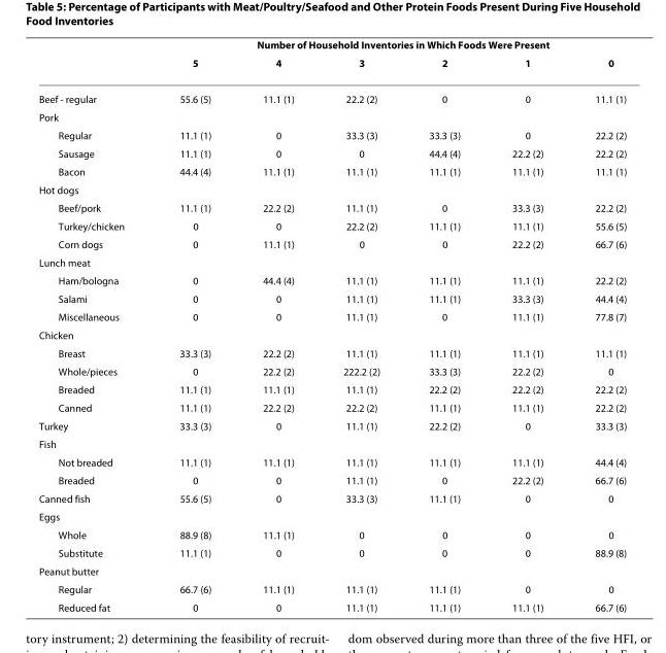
<table><thead><tr><td rowspan="2"></td><td colspan="6">Number of Household Inventories in Which Foods Were Present</td></tr><tr><td>5</td><td>4</td><td>3</td><td>2</td><td>1</td><td>0</td></tr></thead><tbody><tr><td>Beef - regular</td><td>55.6 (5)</td><td>11.1 (1)</td><td>22.2 (2)</td><td>0</td><td>0</td><td>11.1 (1)</td></tr><tr><td colspan="7">Pork</td></tr><tr><td>Regular</td><td>11.1 (1)</td><td>0</td><td>33.3 (3)</td><td>33.3 (3)</td><td>0</td><td>22.2 (2)</td></tr><tr><td>Sausage</td><td>11.1 (1)</td><td>0</td><td>0</td><td>44.4 (4)</td><td>22.2 (2)</td><td>22.2 (2)</td></tr><tr><td>Bacon</td><td>44.4 (4)</td><td>11.1 (1)</td><td>11.1 (1)</td><td>11.1 (1)</td><td>11.1 (1)</td><td>11.1 (1)</td></tr><tr><td colspan="7">Hot dogs</td></tr><tr><td>Beef/pork</td><td>11.1 (1)</td><td>22.2 (2)</td><td>11.1 (1)</td><td>0</td><td>33.3 (3)</td><td>22.2 (2)</td></tr><tr><td>Turkey/chicken</td><td>0</td><td>0</td><td>22.2 (2)</td><td>11.1 (1)</td><td>11.1 (1)</td><td>55.6 (5)</td></tr><tr><td>Corn dogs</td><td>0</td><td>11.1 (1)</td><td>0</td><td>0</td><td>22.2 (2)</td><td>66.7 (6)</td></tr><tr><td colspan="7">Lunch meat</td></tr><tr><td>Ham/bologna</td><td>0</td><td>44.4 (4)</td><td>11.1 (1)</td><td>11.1 (1)</td><td>11.1 (1)</td><td>22.2 (2)</td></tr><tr><td>Salami</td><td>0</td><td>0</td><td>11.1 (1)</td><td>11.1 (1)</td><td>33.3 (3)</td><td>44.4 (4)</td></tr><tr><td>Miscellaneous</td><td>0</td><td>0</td><td>11.1 (1)</td><td>0</td><td>11.1 (1)</td><td>77.8 (7)</td></tr><tr><td colspan="7">Chicken</td></tr><tr><td>Breast</td><td>33.3 (3)</td><td>22.2 (2)</td><td>11.1 (1)</td><td>11.1 (1)</td><td>11.1 (1)</td><td>11.1 (1)</td></tr><tr><td>Whole/pieces</td><td>0</td><td>22.2 (2)</td><td>222.2 (2)</td><td>33.3 (3)</td><td>22.2 (2)</td><td>0</td></tr><tr><td>Breaded</td><td>11.1 (1)</td><td>11.1 (1)</td><td>11.1 (1)</td><td>22.2 (2)</td><td>22.2 (2)</td><td>22.2 (2)</td></tr><tr><td>Canned</td><td>11.1 (1)</td><td>22.2 (2)</td><td>22.2 (2)</td><td>11.1 (1)</td><td>11.1 (1)</td><td>22.2 (2)</td></tr><tr><td>Turkey</td><td>33.3 (3)</td><td>0</td><td>11.1 (1)</td><td>22.2 (2)</td><td>0</td><td>33.3 (3)</td></tr><tr><td colspan="7">Fish</td></tr><tr><td>Not breaded</td><td>11.1 (1)</td><td>11.1 (1)</td><td>11.1 (1)</td><td>11.1 (1)</td><td>11.1 (1)</td><td>44.4 (4)</td></tr><tr><td>Breaded</td><td>0</td><td>0</td><td>11.1 (1)</td><td>0</td><td>22.2 (2)</td><td>66.7 (6)</td></tr><tr><td>Canned fish</td><td>55.6 (5)</td><td>0</td><td>33.3 (3)</td><td>11.1 (1)</td><td>0</td><td>0</td></tr><tr><td colspan="7">Eggs</td></tr><tr><td>Whole</td><td>88.9 (8)</td><td>11.1 (1)</td><td>0</td><td>0</td><td>0</td><td>0</td></tr><tr><td>Substitute</td><td>11.1 (1)</td><td>0</td><td>0</td><td>0</td><td>0</td><td>88.9 (8)</td></tr><tr><td colspan="7">Peanut butter</td></tr><tr><td>Regular</td><td>66.7 (6)</td><td>11.1 (1)</td><td>11.1 (1)</td><td>11.1 (1)</td><td>0</td><td>0</td></tr><tr><td>Reduced fat</td><td>0</td><td>0</td><td>11.1 (1)</td><td>11.1 (1)</td><td>11.1 (1)</td><td>66.7 (6)</td></tr></tbody></table>